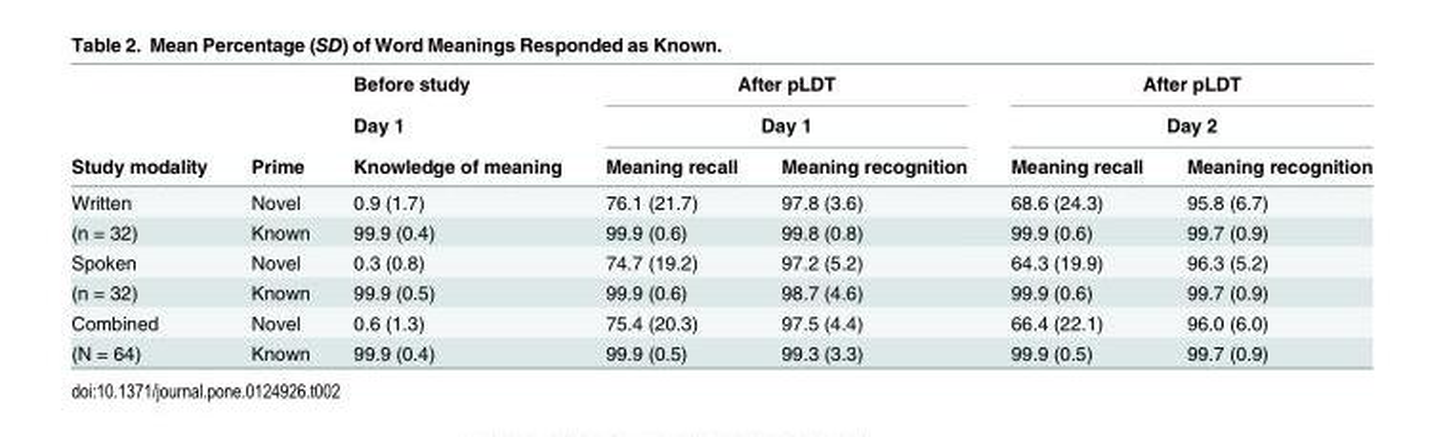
<table><thead><tr><td rowspan="3">Study modality</td><td rowspan="3">Prime</td><td rowspan="3">Before study Day 1 Knowledge of meaning</td><td rowspan="2" colspan="2">After pLDT Day 1</td><td rowspan="2" colspan="2">After pLDT Day 2</td></tr><tr></tr><tr><td>Meaning recall</td><td>Meaning recognition</td><td>Meaning recall</td><td>Meaning recognition</td></tr></thead><tbody><tr><td>Written</td><td>Novel</td><td>0.9 (1.7)</td><td>76.1 (21.7)</td><td>97.8 (3.6)</td><td>68.6 (24.3)</td><td>95.8 (6.7)</td></tr><tr><td>(n = 32)</td><td>Known</td><td>99.9 (0.4)</td><td>99.9 (0.6)</td><td>99.8 (0.8)</td><td>99.9 (0.6)</td><td>99.7 (0.9)</td></tr><tr><td>Spoken</td><td>Novel</td><td>0.3 (0.8)</td><td>74.7 (19.2)</td><td>97.2 (5.2)</td><td>64.3 (19.9)</td><td>96.3 (5.2)</td></tr><tr><td>(n = 32)</td><td>Known</td><td>99.9 (0.5)</td><td>99.9 (0.6)</td><td>98.7 (4.6)</td><td>99.9 (0.6)</td><td>99.7 (0.9)</td></tr><tr><td>Combined</td><td>Novel</td><td>0.6 (1.3)</td><td>75.4 (20.3)</td><td>97.5 (4.4)</td><td>66.4 (22.1)</td><td>96.0 (6.0)</td></tr><tr><td>(N = 64)</td><td>Known</td><td>99.9 (0.4)</td><td>99.9 (0.5)</td><td>99.3 (3.3)</td><td>99.9 (0.5)</td><td>99.7 (0.9)</td></tr></tbody></table>